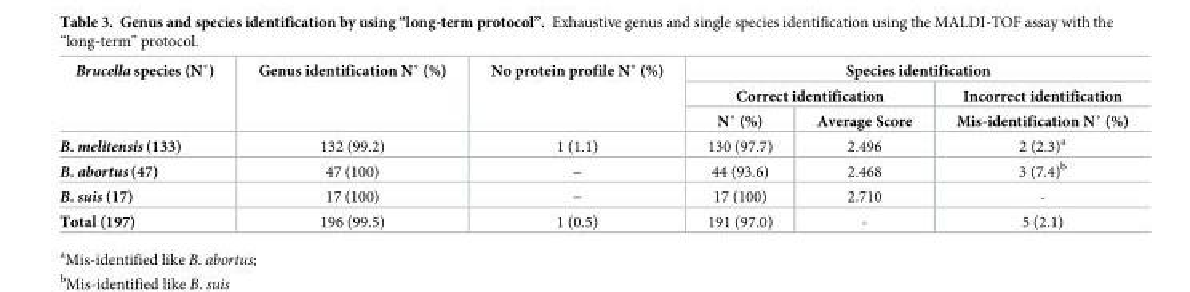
<table><thead><tr><td rowspan="3">Brucella species (N˚)</td><td rowspan="3">Genus identification N˚ (%)</td><td rowspan="3">No protein profile N˚ (%)</td><td colspan="3">Species identification</td></tr><tr><td colspan="2">Correct identification</td><td rowspan="2">Incorrect identification Mis-identification N˚ (%)</td></tr><tr><td>N˚ (%)</td><td>Average Score</td></tr></thead><tbody><tr><td>B. melitensis (133)</td><td>132 (99.2)</td><td>1 (1.1)</td><td>130 (97.7)</td><td>2.496</td><td>2 (2.3)<sup>a</sup></td></tr><tr><td>B. abortus (47)</td><td>47 (100)</td><td>−</td><td>44 (93.6)</td><td>2.468</td><td>3 (7.4)<sup>b</sup></td></tr><tr><td>B. suis (17)</td><td>17 (100)</td><td>−</td><td>17 (100)</td><td>2.710</td><td>-</td></tr><tr><td>Total (197)</td><td>196 (99.5)</td><td>1 (0.5)</td><td>191 (97.0)</td><td>-</td><td>5 (2.1)</td></tr></tbody></table>